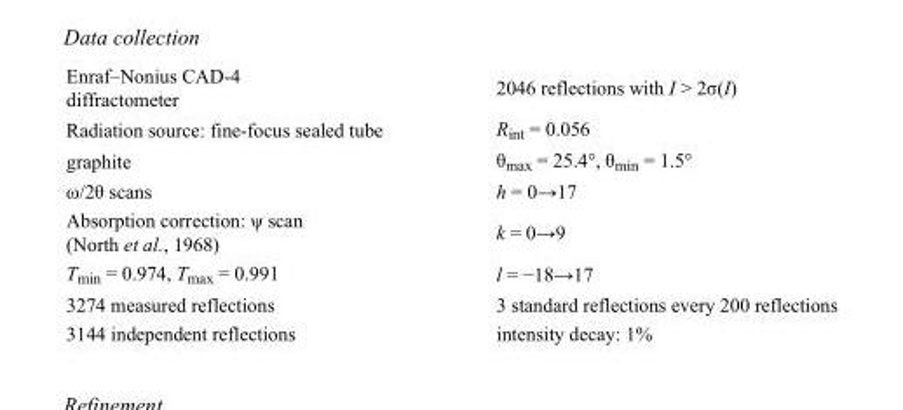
<table><tbody><tr><td>Enraf–Nonius CAD-4 diffractometer</td><td>2046 reflections with I &gt; 2σ(I)</td></tr><tr><td>Radiation source: fine-focus sealed tube</td><td>R<sub>int</sub> = 0.056</td></tr><tr><td>graphite</td><td>θ<sub>max</sub> = 25.4°, θ<sub>min</sub> = 1.5°</td></tr><tr><td>ω/2θ scans</td><td>h = 0→17</td></tr><tr><td>Absorption correction: ψ scan (North et al., 1968)</td><td>k = 0→9</td></tr><tr><td>T<sub>min</sub> = 0.974, T<sub>max</sub> = 0.991</td><td>l = −18→17</td></tr><tr><td>3274 measured reflections</td><td>3 standard reflections every 200 reflections</td></tr><tr><td>3144 independent reflections</td><td>intensity decay: 1%</td></tr></tbody></table>